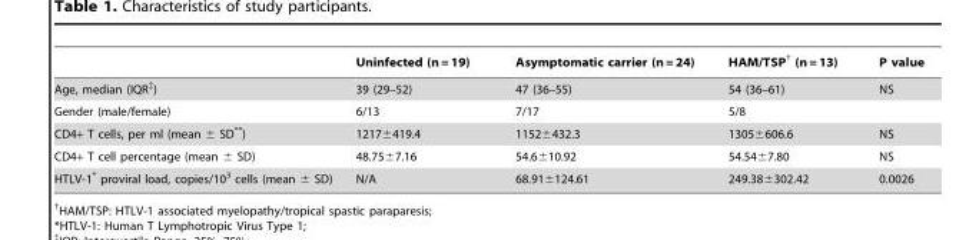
<table><thead><tr><td></td><td>Uninfected (n = 19)</td><td>Asymptomatic carrier (n = 24)</td><td>HAM/TSP† (n = 13)</td><td>P value</td></tr></thead><tbody><tr><td>Age, median (IQR‡)</td><td>39 (29–52)</td><td>47 (36–55)</td><td>54 (36–61)</td><td>NS</td></tr><tr><td>Gender (male/female)</td><td>6/13</td><td>7/17</td><td>5/8</td><td></td></tr><tr><td>CD4+ T cells, per ml (mean ± SD**)</td><td>1217±419.4</td><td>1152±432.3</td><td>1305±606.6</td><td>NS</td></tr><tr><td>CD4+ T cell percentage (mean ± SD)</td><td>48.75±7.16</td><td>54.6±10.92</td><td>54.54±7.80</td><td>NS</td></tr><tr><td>HTLV-1* proviral load, copies/10<sup>3</sup> cells (mean ± SD)</td><td>N/A</td><td>68.91±124.61</td><td>249.38±302.42</td><td>0.0026</td></tr></tbody></table>